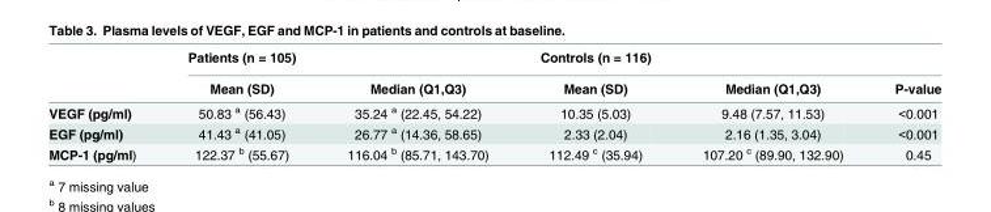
<table><thead><tr><td rowspan="2"></td><td rowspan="2">Patients (n = 105) Mean (SD)</td><td rowspan="2">Median (Q1,Q3)</td><td rowspan="2">Controls (n = 116) Mean (SD)</td><td rowspan="2">Median (Q1,Q3)</td><td rowspan="2">P-value</td></tr><tr></tr></thead><tbody><tr><td>VEGF (pg/ml)</td><td>50.83 <sup>a</sup> (56.43)</td><td>35.24 <sup>a</sup> (22.45, 54.22)</td><td>10.35 (5.03)</td><td>9.48 (7.57, 11.53)</td><td>&lt;0.001</td></tr><tr><td>EGF (pg/ml)</td><td>41.43 <sup>a</sup> (41.05)</td><td>26.77 <sup>a</sup> (14.36, 58.65)</td><td>2.33 (2.04)</td><td>2.16 (1.35, 3.04)</td><td>&lt;0.001</td></tr><tr><td>MCP-1 (pg/ml)</td><td>122.37 <sup>b</sup> (55.67)</td><td>116.04 <sup>b</sup> (85.71, 143.70)</td><td>112.49 <sup>c</sup> (35.94)</td><td>107.20 <sup>c</sup> (89.90, 132.90)</td><td>0.45</td></tr></tbody></table>